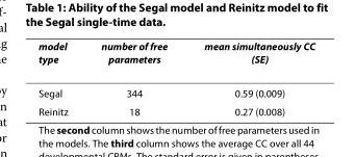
<table><thead><tr><td>model type</td><td>number of free parameters</td><td>mean simultaneously CC (SE)</td></tr></thead><tbody><tr><td>Segal</td><td>344</td><td>0.59 (0.009)</td></tr><tr><td>Reinitz</td><td>18</td><td>0.27 (0.008)</td></tr></tbody></table>